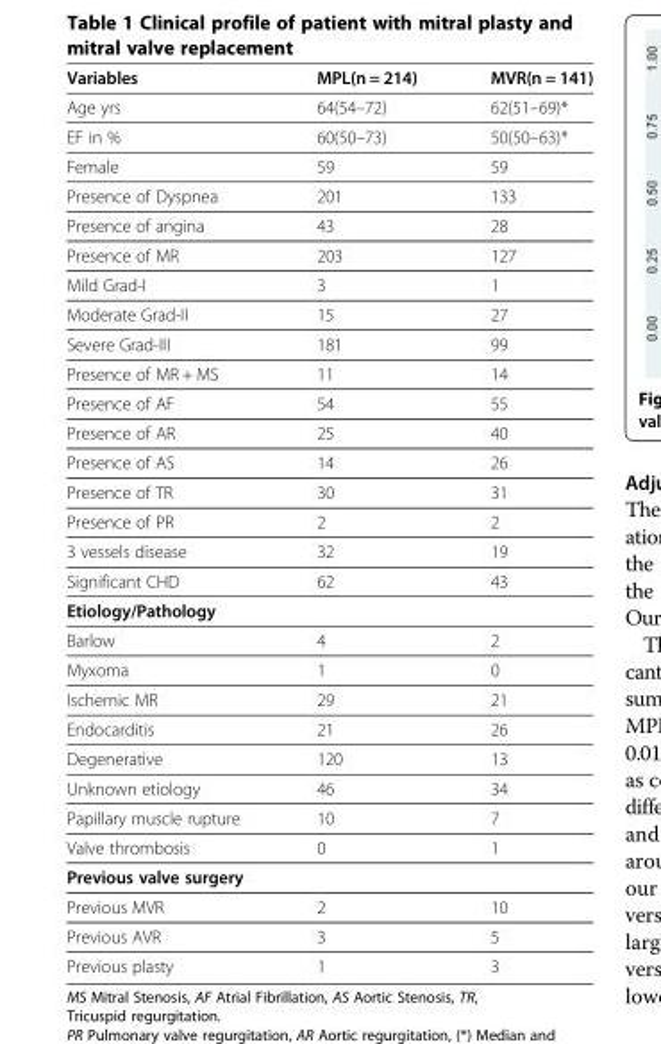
<table><thead><tr><td>Variables</td><td>MPL(n = 214)</td><td>MVR(n = 141)</td></tr></thead><tbody><tr><td>Age yrs</td><td>64(54–72)</td><td>62(51–69)*</td></tr><tr><td>EF in %</td><td>60(50–73)</td><td>50(50–63)*</td></tr><tr><td>Female</td><td>59</td><td>59</td></tr><tr><td>Presence of Dyspnea</td><td>201</td><td>133</td></tr><tr><td>Presence of angina</td><td>43</td><td>28</td></tr><tr><td>Presence of MR</td><td>203</td><td>127</td></tr><tr><td>Mild Grad-I</td><td>3</td><td>1</td></tr><tr><td>Moderate Grad-II</td><td>15</td><td>27</td></tr><tr><td>Severe Grad-III</td><td>181</td><td>99</td></tr><tr><td>Presence of MR + MS</td><td>11</td><td>14</td></tr><tr><td>Presence of AF</td><td>54</td><td>55</td></tr><tr><td>Presence of AR</td><td>25</td><td>40</td></tr><tr><td>Presence of AS</td><td>14</td><td>26</td></tr><tr><td>Presence of TR</td><td>30</td><td>31</td></tr><tr><td>Presence of PR</td><td>2</td><td>2</td></tr><tr><td>3 vessels disease</td><td>32</td><td>19</td></tr><tr><td>Significant CHD</td><td>62</td><td>43</td></tr><tr><td colspan="3">Etiology/Pathology</td></tr><tr><td>Barlow</td><td>4</td><td>2</td></tr><tr><td>Myxoma</td><td>1</td><td>0</td></tr><tr><td>Ischemic MR</td><td>29</td><td>21</td></tr><tr><td>Endocarditis</td><td>21</td><td>26</td></tr><tr><td>Degenerative</td><td>120</td><td>13</td></tr><tr><td>Unknown etiology</td><td>46</td><td>34</td></tr><tr><td>Papillary muscle rupture</td><td>10</td><td>7</td></tr><tr><td>Valve thrombosis</td><td>0</td><td>1</td></tr><tr><td colspan="3">Previous valve surgery</td></tr><tr><td>Previous MVR</td><td>2</td><td>10</td></tr><tr><td>Previous AVR</td><td>3</td><td>5</td></tr><tr><td>Previous plasty</td><td>1</td><td>3</td></tr></tbody></table>